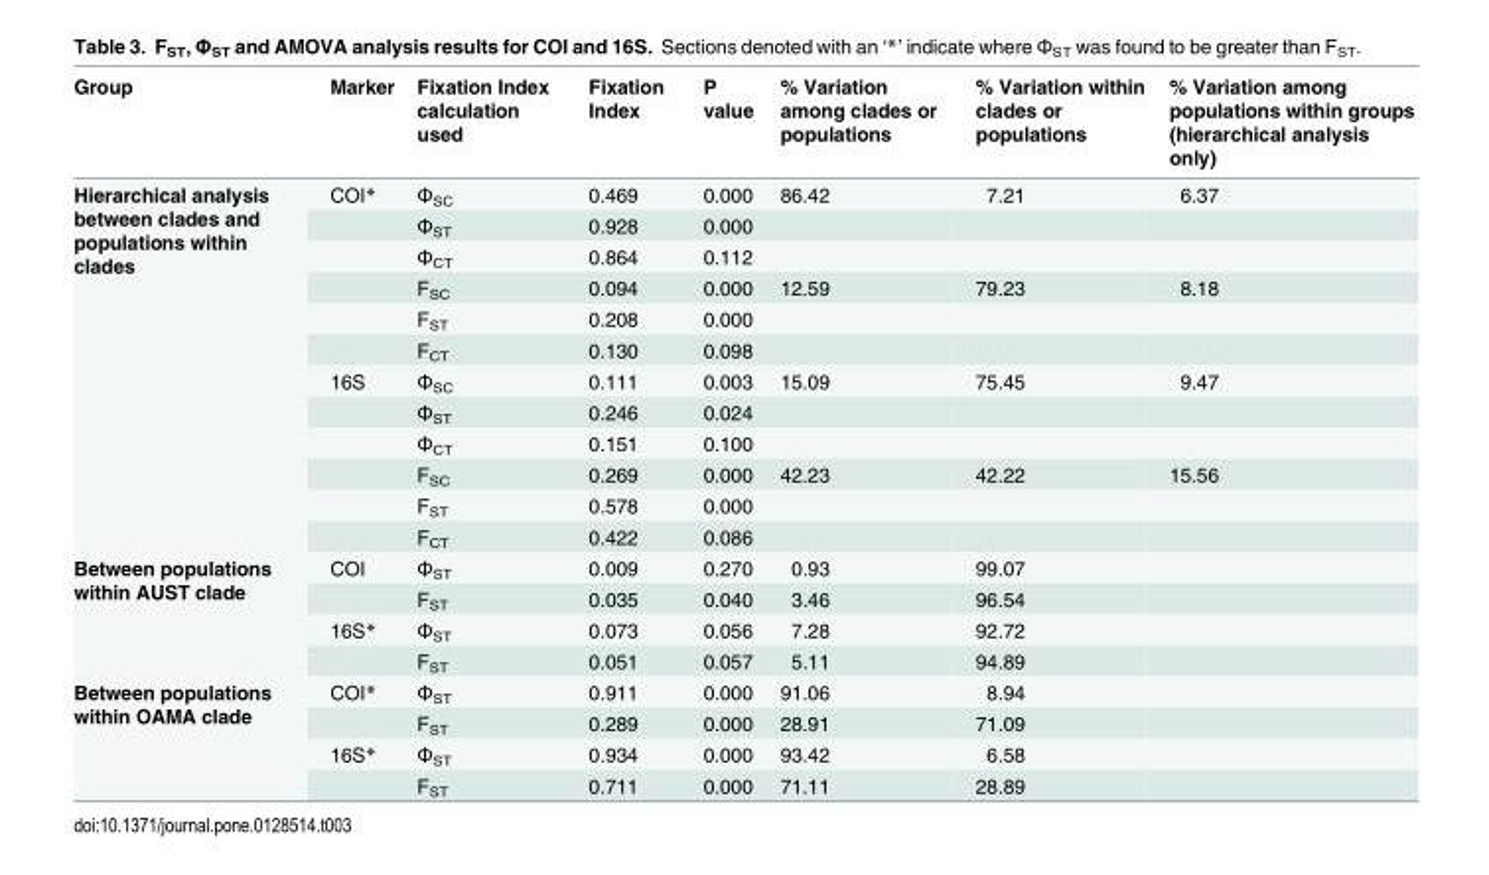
<table><thead><tr><td>Group</td><td>Marker</td><td>Fixation Index calculation used</td><td>Fixation Index</td><td>P value</td><td>% Variation among clades or populations</td><td>% Variation within clades or populations</td><td>% Variation among populations within groups (hierarchical analysis only)</td></tr></thead><tbody><tr><td rowspan="12">Hierarchical analysis between clades and populations within clades</td><td>COI*</td><td>Φ<sub>SC</sub></td><td>0.469</td><td>0.000</td><td>86.42</td><td>7.21</td><td>6.37</td></tr><tr><td></td><td>Φ<sub>ST</sub></td><td>0.928</td><td>0.000</td><td></td><td></td><td></td></tr><tr><td></td><td>Φ<sub>CT</sub></td><td>0.864</td><td>0.112</td><td></td><td></td><td></td></tr><tr><td></td><td>F<sub>SC</sub></td><td>0.094</td><td>0.000</td><td>12.59</td><td>79.23</td><td>8.18</td></tr><tr><td></td><td>F<sub>ST</sub></td><td>0.208</td><td>0.000</td><td></td><td></td><td></td></tr><tr><td></td><td>F<sub>CT</sub></td><td>0.130</td><td>0.098</td><td></td><td></td><td></td></tr><tr><td>16S</td><td>Φ<sub>SC</sub></td><td>0.111</td><td>0.003</td><td>15.09</td><td>75.45</td><td>9.47</td></tr><tr><td></td><td>Φ<sub>ST</sub></td><td>0.246</td><td>0.024</td><td></td><td></td><td></td></tr><tr><td></td><td>Φ<sub>CT</sub></td><td>0.151</td><td>0.100</td><td></td><td></td><td></td></tr><tr><td></td><td>F<sub>SC</sub></td><td>0.269</td><td>0.000</td><td>42.23</td><td>42.22</td><td>15.56</td></tr><tr><td></td><td>F<sub>ST</sub></td><td>0.578</td><td>0.000</td><td></td><td></td><td></td></tr><tr><td></td><td>F<sub>CT</sub></td><td>0.422</td><td>0.086</td><td></td><td></td><td></td></tr><tr><td rowspan="4">Between populations within AUST clade</td><td>COI</td><td>Φ<sub>ST</sub></td><td>0.009</td><td>0.270</td><td>0.93</td><td>99.07</td><td></td></tr><tr><td></td><td>F<sub>ST</sub></td><td>0.035</td><td>0.040</td><td>3.46</td><td>96.54</td><td></td></tr><tr><td>16S*</td><td>Φ<sub>ST</sub></td><td>0.073</td><td>0.056</td><td>7.28</td><td>92.72</td><td></td></tr><tr><td></td><td>F<sub>ST</sub></td><td>0.051</td><td>0.057</td><td>5.11</td><td>94.89</td><td></td></tr><tr><td rowspan="4">Between populations within OAMA clade</td><td>COI*</td><td>Φ<sub>ST</sub></td><td>0.911</td><td>0.000</td><td>91.06</td><td>8.94</td><td></td></tr><tr><td></td><td>F<sub>ST</sub></td><td>0.289</td><td>0.000</td><td>28.91</td><td>71.09</td><td></td></tr><tr><td>16S*</td><td>Φ<sub>ST</sub></td><td>0.934</td><td>0.000</td><td>93.42</td><td>6.58</td><td></td></tr><tr><td></td><td>F<sub>ST</sub></td><td>0.711</td><td>0.000</td><td>71.11</td><td>28.89</td><td></td></tr></tbody></table>